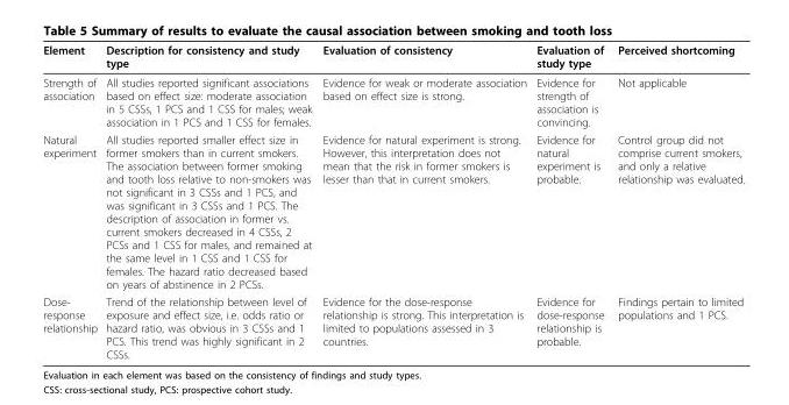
<table><thead><tr><td>Element</td><td>Description for consistency and study type</td><td>Evaluation of consistency</td><td>Evaluation of study type</td><td>Perceived shortcoming</td></tr></thead><tbody><tr><td>Strength of association</td><td>All studies reported significant associations based on effect size: moderate association in 5 CSSs, 1 PCS and 1 CSS for males; weak association in 1 PCS and 1 CSS for females.</td><td>Evidence for weak or moderate association based on effect size is strong.</td><td>Evidence for strength of association is convincing.</td><td>Not applicable</td></tr><tr><td>Natural experiment</td><td>All studies reported smaller effect size in former smokers than in current smokers. The association between former smoking and tooth loss relative to non-smokers was not significant in 3 CSSs and 1 PCS, and was significant in 3 CSSs and 1 PCS. The description of association in former vs. current smokers decreased in 4 CSSs, 2 PCSs and 1 CSS for males, and remained at the same level in 1 CSS and 1 CSS for females. The hazard ratio decreased based on years of abstinence in 2 PCSs.</td><td>Evidence for natural experiment is strong. However, this interpretation does not mean that the risk in former smokers is lesser than that in current smokers.</td><td>Evidence for natural experiment is probable.</td><td>Control group did not comprise current smokers, and only a relative relationship was evaluated.</td></tr><tr><td>Dose- response relationship</td><td>Trend of the relationship between level of exposure and effect size, i.e. odds ratio or hazard ratio, was obvious in 3 CSSs and 1 PCS. This trend was highly significant in 2 CSSs.</td><td>Evidence for the dose-response relationship is strong. This interpretation is limited to populations assessed in 3 countries.</td><td>Evidence for dose-response relationship is probable.</td><td>Findings pertain to limited populations and 1 PCS.</td></tr></tbody></table>